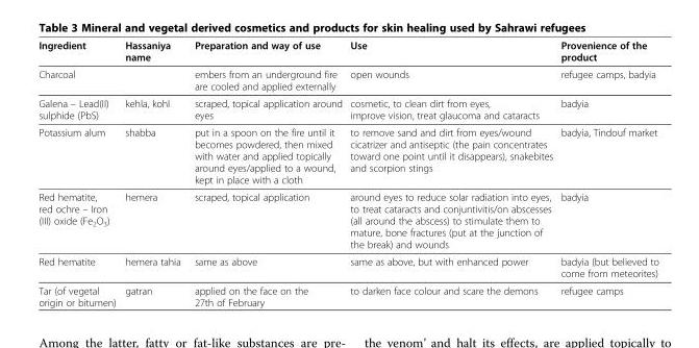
<table><thead><tr><td>Ingredient</td><td>Hassaniya name</td><td>Preparation and way of use</td><td>Use</td><td>Provenience of the product</td></tr></thead><tbody><tr><td>Charcoal</td><td></td><td>embers from an underground fire are cooled and applied externally</td><td>open wounds</td><td>refugee camps, badyia</td></tr><tr><td>Galena – Lead(II) sulphide (PbS)</td><td>kehla, kohl</td><td>scraped, topical application around eyes</td><td>cosmetic, to clean dirt from eyes, improve vision, treat glaucoma and cataracts</td><td>badyia</td></tr><tr><td>Potassium alum</td><td>shabba</td><td>put in a spoon on the fire until it becomes powdered, then mixed with water and applied topically around eyes/applied to a wound, kept in place with a cloth</td><td>to remove sand and dirt from eyes/wound cicatrizer and antiseptic (the pain concentrates toward one point until it disappears), snakebites and scorpion stings</td><td>badyia, Tindouf market</td></tr><tr><td>Red hematite, red ochre – Iron (III) oxide (Fe<sub>2</sub>O<sub>3</sub>)</td><td>hemera</td><td>scraped, topical application</td><td>around eyes to reduce solar radiation into eyes, to treat cataracts and conjuntivitis/on abscesses (all around the abscess) to stimulate them to mature, bone fractures (put at the junction of the break) and wounds</td><td>badyia</td></tr><tr><td>Red hematite</td><td>hemera tahia</td><td>same as above</td><td>same as above, but with enhanced power</td><td>badyia (but believed to come from meteorites)</td></tr><tr><td>Tar (of vegetal origin or bitumen)</td><td>gatran</td><td>applied on the face on the 27th of February</td><td>to darken face colour and scare the demons</td><td>refugee camps</td></tr></tbody></table>